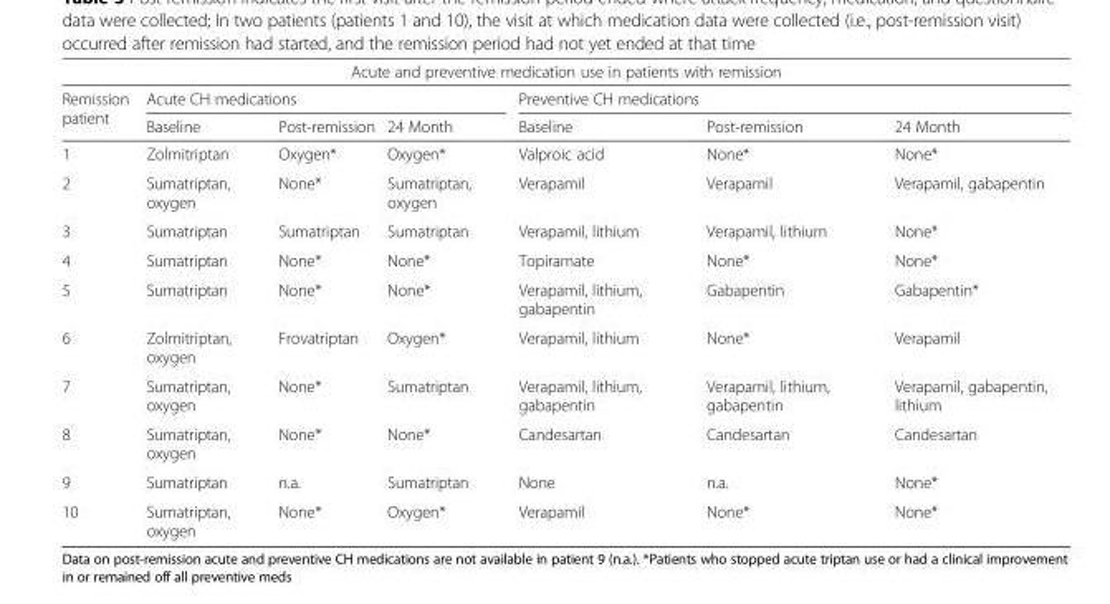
<table><thead><tr><td colspan="7">Acute and preventive medication use in patients with remission</td></tr><tr><td rowspan="2">Remission patient</td><td colspan="3">Acute CH medications</td><td colspan="3">Preventive CH medications</td></tr><tr><td>Baseline</td><td>Post-remission</td><td>24 Month</td><td>Baseline</td><td>Post-remission</td><td>24 Month</td></tr></thead><tbody><tr><td>1</td><td>Zolmitriptan</td><td>Oxygen*</td><td>Oxygen*</td><td>Valproic acid</td><td>None*</td><td>None*</td></tr><tr><td>2</td><td>Sumatriptan, oxygen</td><td>None*</td><td>Sumatriptan, oxygen</td><td>Verapamil</td><td>Verapamil</td><td>Verapamil, gabapentin</td></tr><tr><td>3</td><td>Sumatriptan</td><td>Sumatriptan</td><td>Sumatriptan</td><td>Verapamil, lithium</td><td>Verapamil, lithium</td><td>None*</td></tr><tr><td>4</td><td>Sumatriptan</td><td>None*</td><td>None*</td><td>Topiramate</td><td>None*</td><td>None*</td></tr><tr><td>5</td><td>Sumatriptan</td><td>None*</td><td>None*</td><td>Verapamil, lithium, gabapentin</td><td>Gabapentin</td><td>Gabapentin*</td></tr><tr><td>6</td><td>Zolmitriptan, oxygen</td><td>Frovatriptan</td><td>Oxygen*</td><td>Verapamil, lithium</td><td>None*</td><td>Verapamil</td></tr><tr><td>7</td><td>Sumatriptan, oxygen</td><td>None*</td><td>Sumatriptan</td><td>Verapamil, lithium, gabapentin</td><td>Verapamil, lithium, gabapentin</td><td>Verapamil, gabapentin, lithium</td></tr><tr><td>8</td><td>Sumatriptan, oxygen</td><td>None*</td><td>None*</td><td>Candesartan</td><td>Candesartan</td><td>Candesartan</td></tr><tr><td>9</td><td>Sumatriptan</td><td>n.a.</td><td>Sumatriptan</td><td>None</td><td>n.a.</td><td>None*</td></tr><tr><td>10</td><td>Sumatriptan, oxygen</td><td>None*</td><td>Oxygen*</td><td>Verapamil</td><td>None*</td><td>None*</td></tr></tbody></table>